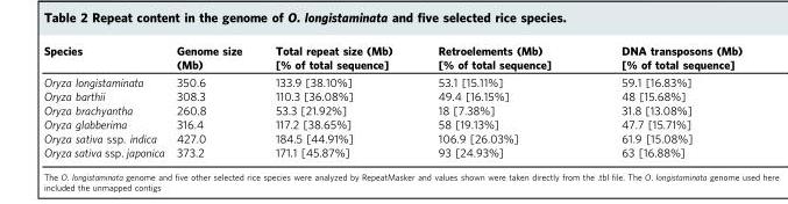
<table><thead><tr><td>Species</td><td>Genome size (Mb)</td><td>Total repeat size (Mb) [% of total sequence]</td><td>Retroelements (Mb) [% of total sequence]</td><td>DNA transposons (Mb) [% of total sequence]</td></tr></thead><tbody><tr><td>Oryza longistaminata</td><td>350.6</td><td>133.9 [38.10%]</td><td>53.1 [15.11%]</td><td>59.1 [16.83%]</td></tr><tr><td>Oryza barthii</td><td>308.3</td><td>110.3 [36.08%]</td><td>49.4 [16.15%]</td><td>48 [15.68%]</td></tr><tr><td>Oryza brachyantha</td><td>260.8</td><td>53.3 [21.92%]</td><td>18 [7.38%]</td><td>31.8 [13.08%]</td></tr><tr><td>Oryza glabberima</td><td>316.4</td><td>117.2 [38.65%]</td><td>58 [19.13%]</td><td>47.7 [15.71%]</td></tr><tr><td>Oryza sativa ssp. indica</td><td>427.0</td><td>184.5 [44.91%]</td><td>106.9 [26.03%]</td><td>61.9 [15.08%]</td></tr><tr><td>Oryza sativa ssp. japonica</td><td>373.2</td><td>171.1 [45.87%]</td><td>93 [24.93%]</td><td>63 [16.88%]</td></tr></tbody></table>